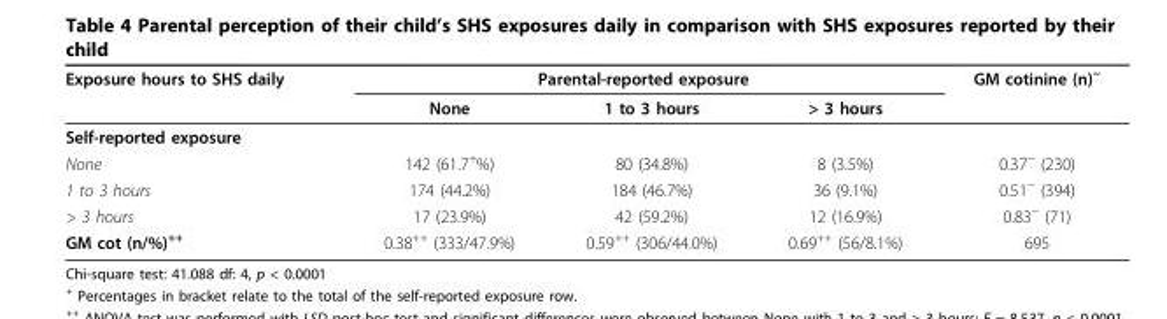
<table><thead><tr><td rowspan="2">Exposure hours to SHS daily</td><td colspan="3">Parental-reported exposure</td><td rowspan="2">GM cotinine (n)<sup>~</sup></td></tr><tr><td>None</td><td>1 to 3 hours</td><td>&gt; 3 hours</td></tr></thead><tbody><tr><td colspan="5">Self-reported exposure</td></tr><tr><td>None</td><td>142 (61.7<sup>+</sup>%)</td><td>80 (34.8%)</td><td>8 (3.5%)</td><td>0.37<sup>~</sup> (230)</td></tr><tr><td>1 to 3 hours</td><td>174 (44.2%)</td><td>184 (46.7%)</td><td>36 (9.1%)</td><td>0.51<sup>~</sup> (394)</td></tr><tr><td>&gt; 3 hours</td><td>17 (23.9%)</td><td>42 (59.2%)</td><td>12 (16.9%)</td><td>0.83<sup>~</sup> (71)</td></tr><tr><td>GM cot (n/%)<sup>++</sup></td><td>0.38<sup>++</sup> (333/47.9%)</td><td>0.59<sup>++</sup> (306/44.0%)</td><td>0.69<sup>++</sup> (56/8.1%)</td><td>695</td></tr></tbody></table>